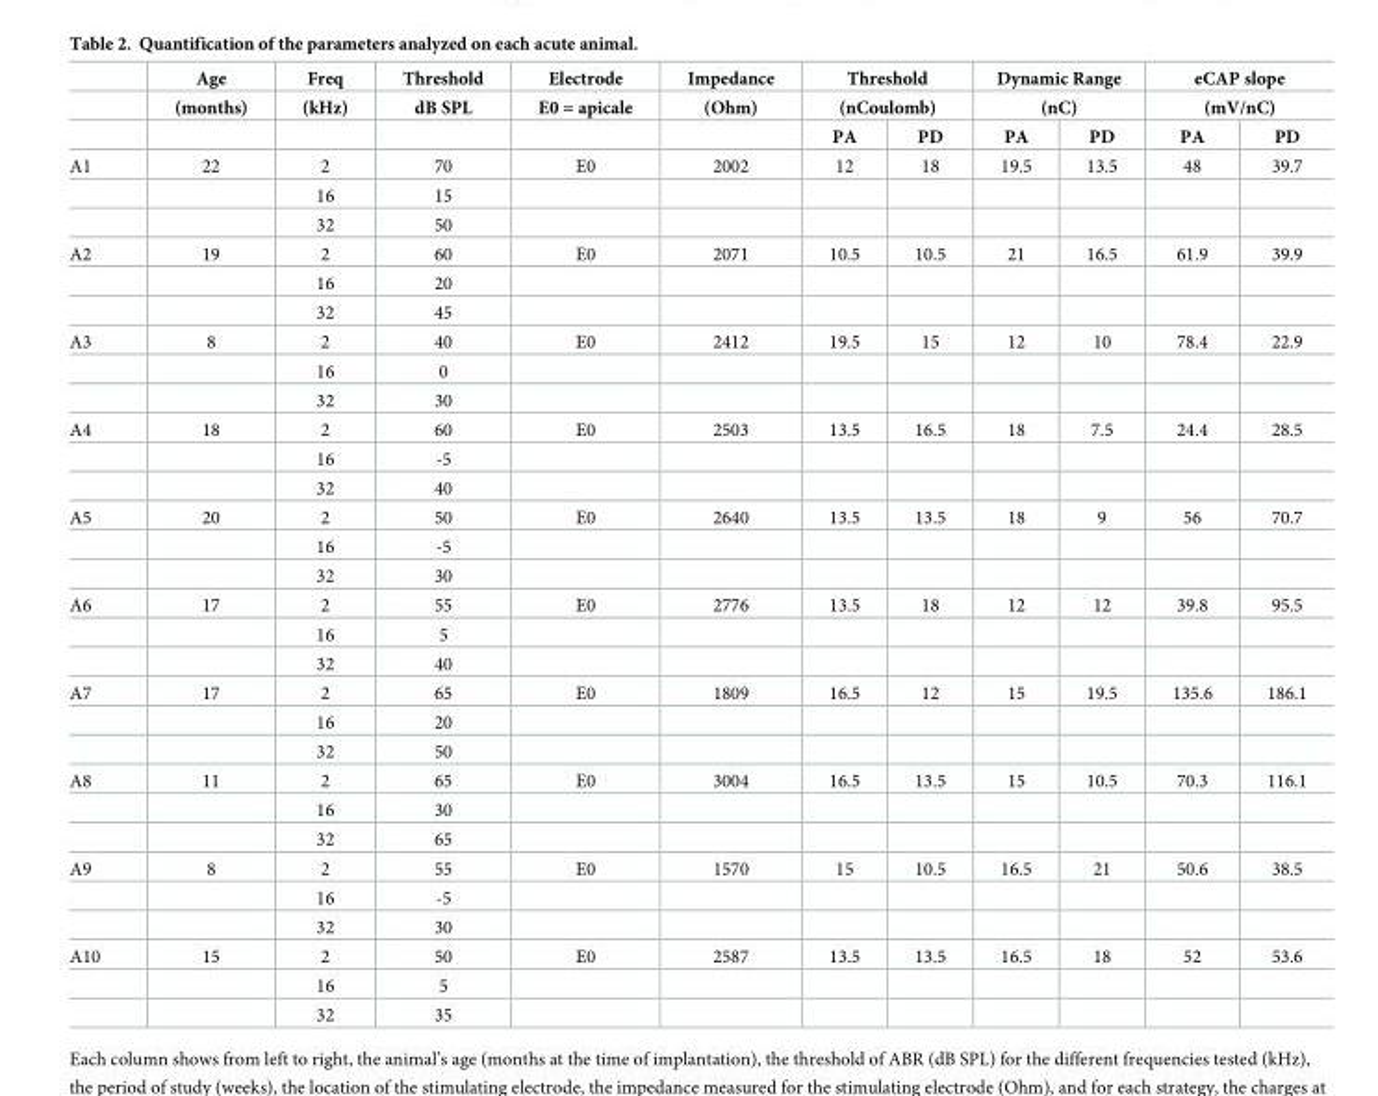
<table><thead><tr><td rowspan="3"></td><td rowspan="3">Age (months)</td><td rowspan="3">Freq (kHz)</td><td rowspan="3">Threshold dB SPL</td><td rowspan="3">Electrode E0 = apicale</td><td rowspan="3">Impedance (Ohm)</td><td rowspan="2" colspan="2">Threshold (nCoulomb)</td><td rowspan="2" colspan="2">Dynamic Range (nC)</td><td rowspan="2" colspan="2">eCAP slope (mV/nC)</td></tr><tr></tr><tr><td>PA</td><td>PD</td><td>PA</td><td>PD</td><td>PA</td><td>PD</td></tr></thead><tbody><tr><td rowspan="3">A1</td><td>22</td><td>2</td><td>70</td><td>E0</td><td>2002</td><td>12</td><td>18</td><td>19.5</td><td>13.5</td><td>48</td><td>39.7</td></tr><tr><td></td><td>16</td><td>15</td><td></td><td></td><td></td><td></td><td></td><td></td><td></td><td></td></tr><tr><td></td><td>32</td><td>50</td><td></td><td></td><td></td><td></td><td></td><td></td><td></td><td></td></tr><tr><td rowspan="3">A2</td><td>19</td><td>2</td><td>60</td><td>E0</td><td>2071</td><td>10.5</td><td>10.5</td><td>21</td><td>16.5</td><td>61.9</td><td>39.9</td></tr><tr><td></td><td>16</td><td>20</td><td></td><td></td><td></td><td></td><td></td><td></td><td></td><td></td></tr><tr><td></td><td>32</td><td>45</td><td></td><td></td><td></td><td></td><td></td><td></td><td></td><td></td></tr><tr><td rowspan="3">A3</td><td>8</td><td>2</td><td>40</td><td>E0</td><td>2412</td><td>19.5</td><td>15</td><td>12</td><td>10</td><td>78.4</td><td>22.9</td></tr><tr><td></td><td>16</td><td>0</td><td></td><td></td><td></td><td></td><td></td><td></td><td></td><td></td></tr><tr><td></td><td>32</td><td>30</td><td></td><td></td><td></td><td></td><td></td><td></td><td></td><td></td></tr><tr><td rowspan="3">A4</td><td>18</td><td>2</td><td>60</td><td>E0</td><td>2503</td><td>13.5</td><td>16.5</td><td>18</td><td>7.5</td><td>24.4</td><td>28.5</td></tr><tr><td></td><td>16</td><td>-5</td><td></td><td></td><td></td><td></td><td></td><td></td><td></td><td></td></tr><tr><td></td><td>32</td><td>40</td><td></td><td></td><td></td><td></td><td></td><td></td><td></td><td></td></tr><tr><td rowspan="3">A5</td><td>20</td><td>2</td><td>50</td><td>E0</td><td>2640</td><td>13.5</td><td>13.5</td><td>18</td><td>9</td><td>56</td><td>70.7</td></tr><tr><td></td><td>16</td><td>-5</td><td></td><td></td><td></td><td></td><td></td><td></td><td></td><td></td></tr><tr><td></td><td>32</td><td>30</td><td></td><td></td><td></td><td></td><td></td><td></td><td></td><td></td></tr><tr><td rowspan="3">A6</td><td>17</td><td>2</td><td>55</td><td>E0</td><td>2776</td><td>13.5</td><td>18</td><td>12</td><td>12</td><td>39.8</td><td>95.5</td></tr><tr><td></td><td>16</td><td>5</td><td></td><td></td><td></td><td></td><td></td><td></td><td></td><td></td></tr><tr><td></td><td>32</td><td>40</td><td></td><td></td><td></td><td></td><td></td><td></td><td></td><td></td></tr><tr><td rowspan="3">A7</td><td>17</td><td>2</td><td>65</td><td>E0</td><td>1809</td><td>16.5</td><td>12</td><td>15</td><td>19.5</td><td>135.6</td><td>186.1</td></tr><tr><td></td><td>16</td><td>20</td><td></td><td></td><td></td><td></td><td></td><td></td><td></td><td></td></tr><tr><td></td><td>32</td><td>50</td><td></td><td></td><td></td><td></td><td></td><td></td><td></td><td></td></tr><tr><td rowspan="3">A8</td><td>11</td><td>2</td><td>65</td><td>E0</td><td>3004</td><td>16.5</td><td>13.5</td><td>15</td><td>10.5</td><td>70.3</td><td>116.1</td></tr><tr><td></td><td>16</td><td>30</td><td></td><td></td><td></td><td></td><td></td><td></td><td></td><td></td></tr><tr><td></td><td>32</td><td>65</td><td></td><td></td><td></td><td></td><td></td><td></td><td></td><td></td></tr><tr><td rowspan="3">A9</td><td>8</td><td>2</td><td>55</td><td>E0</td><td>1570</td><td>15</td><td>10.5</td><td>16.5</td><td>21</td><td>50.6</td><td>38.5</td></tr><tr><td></td><td>16</td><td>-5</td><td></td><td></td><td></td><td></td><td></td><td></td><td></td><td></td></tr><tr><td></td><td>32</td><td>30</td><td></td><td></td><td></td><td></td><td></td><td></td><td></td><td></td></tr><tr><td rowspan="3">A10</td><td>15</td><td>2</td><td>50</td><td>E0</td><td>2587</td><td>13.5</td><td>13.5</td><td>16.5</td><td>18</td><td>52</td><td>53.6</td></tr><tr><td></td><td>16</td><td>5</td><td></td><td></td><td></td><td></td><td></td><td></td><td></td><td></td></tr><tr><td></td><td>32</td><td>35</td><td></td><td></td><td></td><td></td><td></td><td></td><td></td><td></td></tr></tbody></table>